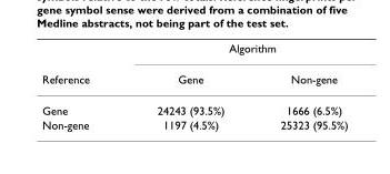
<table><thead><tr><td rowspan="2">Reference</td><td colspan="2">Algorithm</td></tr><tr><td>Gene</td><td>Non-gene</td></tr></thead><tbody><tr><td>Gene</td><td>24243 (93.5%)</td><td>1666 (6.5%)</td></tr><tr><td>Non-gene</td><td>1197 (4.5%)</td><td>25323 (95.5%)</td></tr></tbody></table>